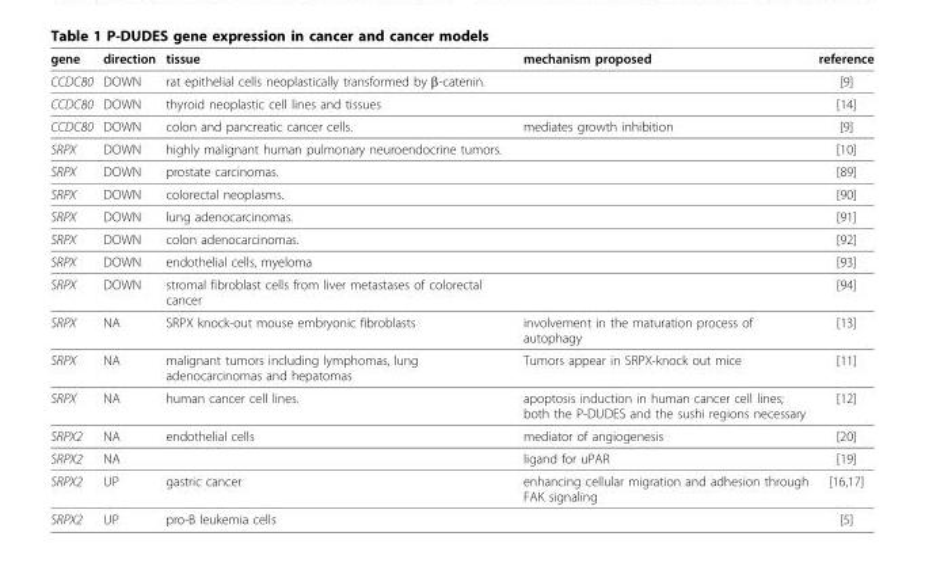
<table><thead><tr><td>gene</td><td>direction</td><td>tissue</td><td>mechanism proposed</td><td>reference</td></tr></thead><tbody><tr><td>CCDC80</td><td>DOWN</td><td>rat epithelial cells neoplastically transformed by β-catenin.</td><td></td><td>[9]</td></tr><tr><td>CCDC80</td><td>DOWN</td><td>thyroid neoplastic cell lines and tissues</td><td></td><td>[14]</td></tr><tr><td>CCDC80</td><td>DOWN</td><td>colon and pancreatic cancer cells.</td><td>mediates growth inhibition</td><td>[9]</td></tr><tr><td>SRPX</td><td>DOWN</td><td>highly malignant human pulmonary neuroendocrine tumors.</td><td></td><td>[10]</td></tr><tr><td>SRPX</td><td>DOWN</td><td>prostate carcinomas.</td><td></td><td>[89]</td></tr><tr><td>SRPX</td><td>DOWN</td><td>colorectal neoplasms.</td><td></td><td>[90]</td></tr><tr><td>SRPX</td><td>DOWN</td><td>lung adenocarcinomas.</td><td></td><td>[91]</td></tr><tr><td>SRPX</td><td>DOWN</td><td>colon adenocarcinomas.</td><td></td><td>[92]</td></tr><tr><td>SRPX</td><td>DOWN</td><td>endothelial cells, myeloma</td><td></td><td>[93]</td></tr><tr><td>SRPX</td><td>DOWN</td><td>stromal fibroblast cells from liver metastases of colorectal cancer</td><td></td><td>[94]</td></tr><tr><td>SRPX</td><td>NA</td><td>SRPX knock-out mouse embryonic fibroblasts</td><td>involvement in the maturation process of autophagy</td><td>[13]</td></tr><tr><td>SRPX</td><td>NA</td><td>malignant tumors including lymphomas, lung adenocarcinomas and hepatomas</td><td>Tumors appear in SRPX-knock out mice</td><td>[11]</td></tr><tr><td>SRPX</td><td>NA</td><td>human cancer cell lines.</td><td>apoptosis induction in human cancer cell lines; both the P-DUDES and the sushi regions necessary</td><td>[12]</td></tr><tr><td>SRPX2</td><td>NA</td><td>endothelial cells</td><td>mediator of angiogenesis</td><td>[20]</td></tr><tr><td>SRPX2</td><td>NA</td><td></td><td>ligand for uPAR</td><td>[19]</td></tr><tr><td>SRPX2</td><td>UP</td><td>gastric cancer</td><td>enhancing cellular migration and adhesion through FAK signaling</td><td>[16,17]</td></tr><tr><td>SRPX2</td><td>UP</td><td>pro-B leukemia cells</td><td></td><td>[5]</td></tr></tbody></table>